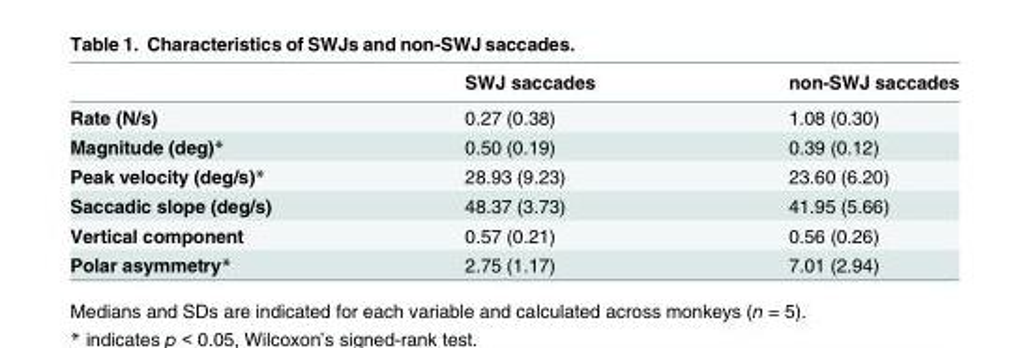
<table><thead><tr><td></td><td>SWJ saccades</td><td>non-SWJ saccades</td></tr></thead><tbody><tr><td>Rate (N/s)</td><td>0.27 (0.38)</td><td>1.08 (0.30)</td></tr><tr><td>Magnitude (deg)*</td><td>0.50 (0.19)</td><td>0.39 (0.12)</td></tr><tr><td>Peak velocity (deg/s)*</td><td>28.93 (9.23)</td><td>23.60 (6.20)</td></tr><tr><td>Saccadic slope (deg/s)</td><td>48.37 (3.73)</td><td>41.95 (5.66)</td></tr><tr><td>Vertical component</td><td>0.57 (0.21)</td><td>0.56 (0.26)</td></tr><tr><td>Polar asymmetry*</td><td>2.75 (1.17)</td><td>7.01 (2.94)</td></tr></tbody></table>